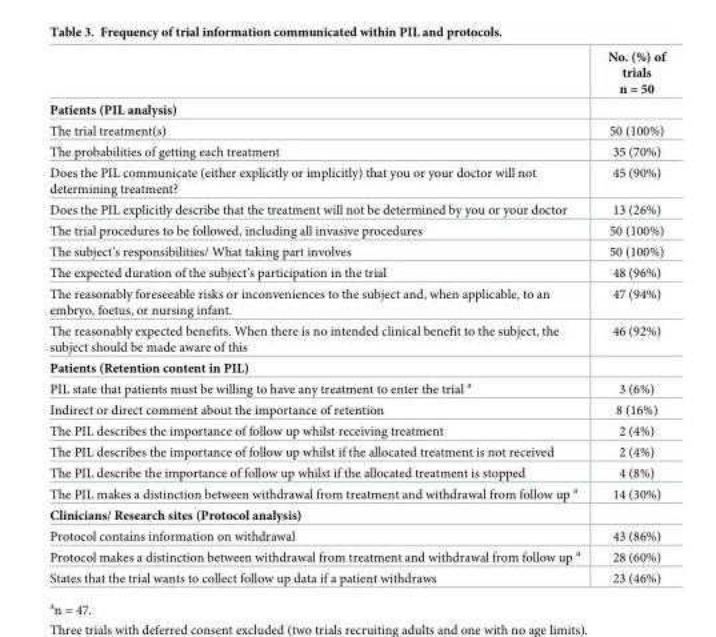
<table><thead><tr><td></td><td>No. (%) of trials n = 50</td></tr></thead><tbody><tr><td colspan="2">Patients (PIL analysis)</td></tr><tr><td>The trial treatment(s)</td><td>50 (100%)</td></tr><tr><td>The probabilities of getting each treatment</td><td>35 (70%)</td></tr><tr><td>Does the PIL communicate (either explicitly or implicitly) that you or your doctor will not determining treatment?</td><td>45 (90%)</td></tr><tr><td>Does the PIL explicitly describe that the treatment will not be determined by you or your doctor</td><td>13 (26%)</td></tr><tr><td>The trial procedures to be followed, including all invasive procedures</td><td>50 (100%)</td></tr><tr><td>The subject’s responsibilities/ What taking part involves</td><td>50 (100%)</td></tr><tr><td>The expected duration of the subject’s participation in the trial</td><td>48 (96%)</td></tr><tr><td>The reasonably foreseeable risks or inconveniences to the subject and, when applicable, to an embryo, foetus, or nursing infant.</td><td>47 (94%)</td></tr><tr><td>The reasonably expected benefits. When there is no intended clinical benefit to the subject, the subject should be made aware of this</td><td>46 (92%)</td></tr><tr><td colspan="2">Patients (Retention content in PIL)</td></tr><tr><td>PIL state that patients must be willing to have any treatment to enter the trial <sup>a</sup></td><td>3 (6%)</td></tr><tr><td>Indirect or direct comment about the importance of retention</td><td>8 (16%)</td></tr><tr><td>The PIL describes the importance of follow up whilst receiving treatment</td><td>2 (4%)</td></tr><tr><td>The PIL describes the importance of follow up whilst if the allocated treatment is not received</td><td>2 (4%)</td></tr><tr><td>The PIL describe the importance of follow up whilst if the allocated treatment is stopped</td><td>4 (8%)</td></tr><tr><td>The PIL makes a distinction between withdrawal from treatment and withdrawal from follow up <sup>a</sup></td><td>14 (30%)</td></tr><tr><td colspan="2">Clinicians/ Research sites (Protocol analysis)</td></tr><tr><td>Protocol contains information on withdrawal</td><td>43 (86%)</td></tr><tr><td>Protocol makes a distinction between withdrawal from treatment and withdrawal from follow up <sup>a</sup></td><td>28 (60%)</td></tr><tr><td>States that the trial wants to collect follow up data if a patient withdraws</td><td>23 (46%)</td></tr></tbody></table>